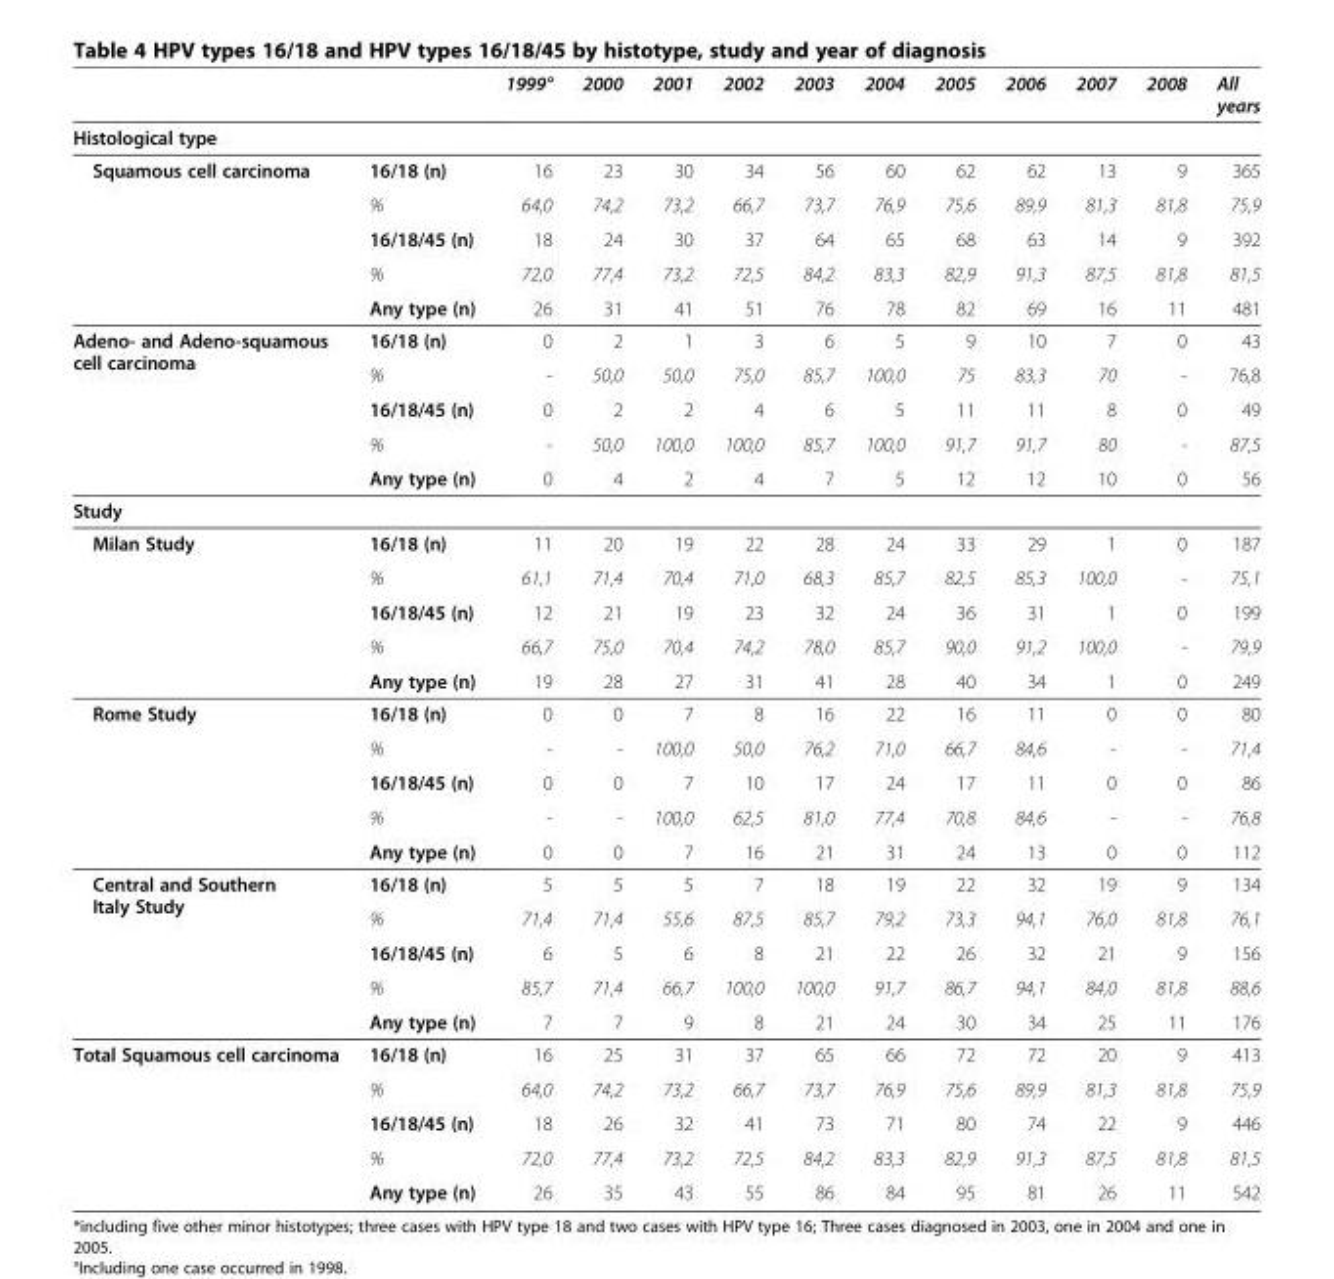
<table><thead><tr><td></td><td></td><td>1999°</td><td>2000</td><td>2001</td><td>2002</td><td>2003</td><td>2004</td><td>2005</td><td>2006</td><td>2007</td><td>2008</td><td>All years</td></tr></thead><tbody><tr><td colspan="13">Histological type</td></tr><tr><td rowspan="5">Squamous cell carcinoma</td><td>16/18 (n)</td><td>16</td><td>23</td><td>30</td><td>34</td><td>56</td><td>60</td><td>62</td><td>62</td><td>13</td><td>9</td><td>365</td></tr><tr><td>%</td><td>64,0</td><td>74,2</td><td>73,2</td><td>66,7</td><td>73,7</td><td>76,9</td><td>75,6</td><td>89,9</td><td>81,3</td><td>81,8</td><td>75,9</td></tr><tr><td>16/18/45 (n)</td><td>18</td><td>24</td><td>30</td><td>37</td><td>64</td><td>65</td><td>68</td><td>63</td><td>14</td><td>9</td><td>392</td></tr><tr><td>%</td><td>72,0</td><td>77,4</td><td>73,2</td><td>72,5</td><td>84,2</td><td>83,3</td><td>82,9</td><td>91,3</td><td>87,5</td><td>81,8</td><td>81,5</td></tr><tr><td>Any type (n)</td><td>26</td><td>31</td><td>41</td><td>51</td><td>76</td><td>78</td><td>82</td><td>69</td><td>16</td><td>11</td><td>481</td></tr><tr><td rowspan="5">Adeno- and Adeno-squamous cell carcinoma</td><td>16/18 (n)</td><td>0</td><td>2</td><td>1</td><td>3</td><td>6</td><td>5</td><td>9</td><td>10</td><td>7</td><td>0</td><td>43</td></tr><tr><td>%</td><td>-</td><td>50,0</td><td>50,0</td><td>75,0</td><td>85,7</td><td>100,0</td><td>75</td><td>83,3</td><td>70</td><td>-</td><td>76,8</td></tr><tr><td>16/18/45 (n)</td><td>0</td><td>2</td><td>2</td><td>4</td><td>6</td><td>5</td><td>11</td><td>11</td><td>8</td><td>0</td><td>49</td></tr><tr><td>%</td><td>-</td><td>50,0</td><td>100,0</td><td>100,0</td><td>85,7</td><td>100,0</td><td>91,7</td><td>91,7</td><td>80</td><td>-</td><td>87,5</td></tr><tr><td>Any type (n)</td><td>0</td><td>4</td><td>2</td><td>4</td><td>7</td><td>5</td><td>12</td><td>12</td><td>10</td><td>0</td><td>56</td></tr><tr><td colspan="13">Study</td></tr><tr><td rowspan="5">Milan Study</td><td>16/18 (n)</td><td>11</td><td>20</td><td>19</td><td>22</td><td>28</td><td>24</td><td>33</td><td>29</td><td>1</td><td>0</td><td>187</td></tr><tr><td>%</td><td>61,1</td><td>71,4</td><td>70,4</td><td>71,0</td><td>68,3</td><td>85,7</td><td>82,5</td><td>85,3</td><td>100,0</td><td>-</td><td>75,1</td></tr><tr><td>16/18/45 (n)</td><td>12</td><td>21</td><td>19</td><td>23</td><td>32</td><td>24</td><td>36</td><td>31</td><td>1</td><td>0</td><td>199</td></tr><tr><td>%</td><td>66,7</td><td>75,0</td><td>70,4</td><td>74,2</td><td>78,0</td><td>85,7</td><td>90,0</td><td>91,2</td><td>100,0</td><td>-</td><td>79,9</td></tr><tr><td>Any type (n)</td><td>19</td><td>28</td><td>27</td><td>31</td><td>41</td><td>28</td><td>40</td><td>34</td><td>1</td><td>0</td><td>249</td></tr><tr><td rowspan="5">Rome Study</td><td>16/18 (n)</td><td>0</td><td>0</td><td>7</td><td>8</td><td>16</td><td>22</td><td>16</td><td>11</td><td>0</td><td>0</td><td>80</td></tr><tr><td>%</td><td>-</td><td>-</td><td>100,0</td><td>50,0</td><td>76,2</td><td>71,0</td><td>66,7</td><td>84,6</td><td>-</td><td>-</td><td>71,4</td></tr><tr><td>16/18/45 (n)</td><td>0</td><td>0</td><td>7</td><td>10</td><td>17</td><td>24</td><td>17</td><td>11</td><td>0</td><td>0</td><td>86</td></tr><tr><td>%</td><td>-</td><td>-</td><td>100,0</td><td>62,5</td><td>81,0</td><td>77,4</td><td>70,8</td><td>84,6</td><td>-</td><td>-</td><td>76,8</td></tr><tr><td>Any type (n)</td><td>0</td><td>0</td><td>7</td><td>16</td><td>21</td><td>31</td><td>24</td><td>13</td><td>0</td><td>0</td><td>112</td></tr><tr><td rowspan="5">Central and Southern Italy Study</td><td>16/18 (n)</td><td>5</td><td>5</td><td>5</td><td>7</td><td>18</td><td>19</td><td>22</td><td>32</td><td>19</td><td>9</td><td>134</td></tr><tr><td>%</td><td>71,4</td><td>71,4</td><td>55,6</td><td>87,5</td><td>85,7</td><td>79,2</td><td>73,3</td><td>94,1</td><td>76,0</td><td>81,8</td><td>76,1</td></tr><tr><td>16/18/45 (n)</td><td>6</td><td>5</td><td>6</td><td>8</td><td>21</td><td>22</td><td>26</td><td>32</td><td>21</td><td>9</td><td>156</td></tr><tr><td>%</td><td>85,7</td><td>71,4</td><td>66,7</td><td>100,0</td><td>100,0</td><td>91,7</td><td>86,7</td><td>94,1</td><td>84,0</td><td>81,8</td><td>88,6</td></tr><tr><td>Any type (n)</td><td>7</td><td>7</td><td>9</td><td>8</td><td>21</td><td>24</td><td>30</td><td>34</td><td>25</td><td>11</td><td>176</td></tr><tr><td rowspan="5">Total Squamous cell carcinoma</td><td>16/18 (n)</td><td>16</td><td>25</td><td>31</td><td>37</td><td>65</td><td>66</td><td>72</td><td>72</td><td>20</td><td>9</td><td>413</td></tr><tr><td>%</td><td>64,0</td><td>74,2</td><td>73,2</td><td>66,7</td><td>73,7</td><td>76,9</td><td>75,6</td><td>89,9</td><td>81,3</td><td>81,8</td><td>75,9</td></tr><tr><td>16/18/45 (n)</td><td>18</td><td>26</td><td>32</td><td>41</td><td>73</td><td>71</td><td>80</td><td>74</td><td>22</td><td>9</td><td>446</td></tr><tr><td>%</td><td>72,0</td><td>77,4</td><td>73,2</td><td>72,5</td><td>84,2</td><td>83,3</td><td>82,9</td><td>91,3</td><td>87,5</td><td>81,8</td><td>81,5</td></tr><tr><td>Any type (n)</td><td>26</td><td>35</td><td>43</td><td>55</td><td>86</td><td>84</td><td>95</td><td>81</td><td>26</td><td>11</td><td>542</td></tr></tbody></table>